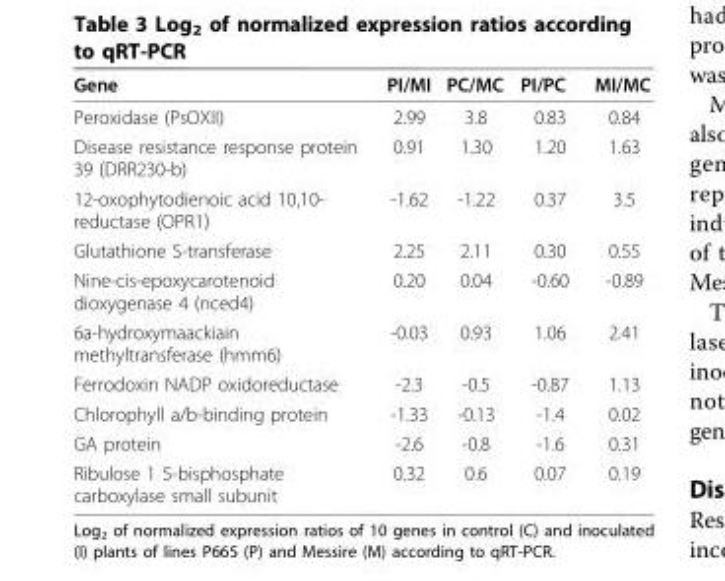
<table><thead><tr><td>Gene</td><td>PI/MI</td><td>PC/MC</td><td>PI/PC</td><td>MI/MC</td></tr></thead><tbody><tr><td>Peroxidase (PsOXII)</td><td>2.99</td><td>3.8</td><td>0.83</td><td>0.84</td></tr><tr><td>Disease resistance response protein 39 (DRR230-b)</td><td>0.91</td><td>1.30</td><td>1.20</td><td>1.63</td></tr><tr><td>12-oxophytodienoic acid 10,10- reductase (OPR1)</td><td>-1.62</td><td>-1.22</td><td>0.37</td><td>3.5</td></tr><tr><td>Glutathione S-transferase</td><td>2.25</td><td>2.11</td><td>0.30</td><td>0.55</td></tr><tr><td>Nine-cis-epoxycarotenoid dioxygenase 4 (nced4)</td><td>0.20</td><td>0.04</td><td>-0.60</td><td>-0.89</td></tr><tr><td>6a-hydroxymaackiain methyltransferase (hmm6)</td><td>-0.03</td><td>0.93</td><td>1.06</td><td>2.41</td></tr><tr><td>Ferrodoxin NADP oxidoreductase</td><td>-2.3</td><td>-0.5</td><td>-0.87</td><td>1.13</td></tr><tr><td>Chlorophyll a/b-binding protein</td><td>-1.33</td><td>-0.13</td><td>-1.4</td><td>0.02</td></tr><tr><td>GA protein</td><td>-2.6</td><td>-0.8</td><td>-1.6</td><td>0.31</td></tr><tr><td>Ribulose 1 5-bisphosphate carboxylase small subunit</td><td>0.32</td><td>0.6</td><td>0.07</td><td>0.19</td></tr></tbody></table>